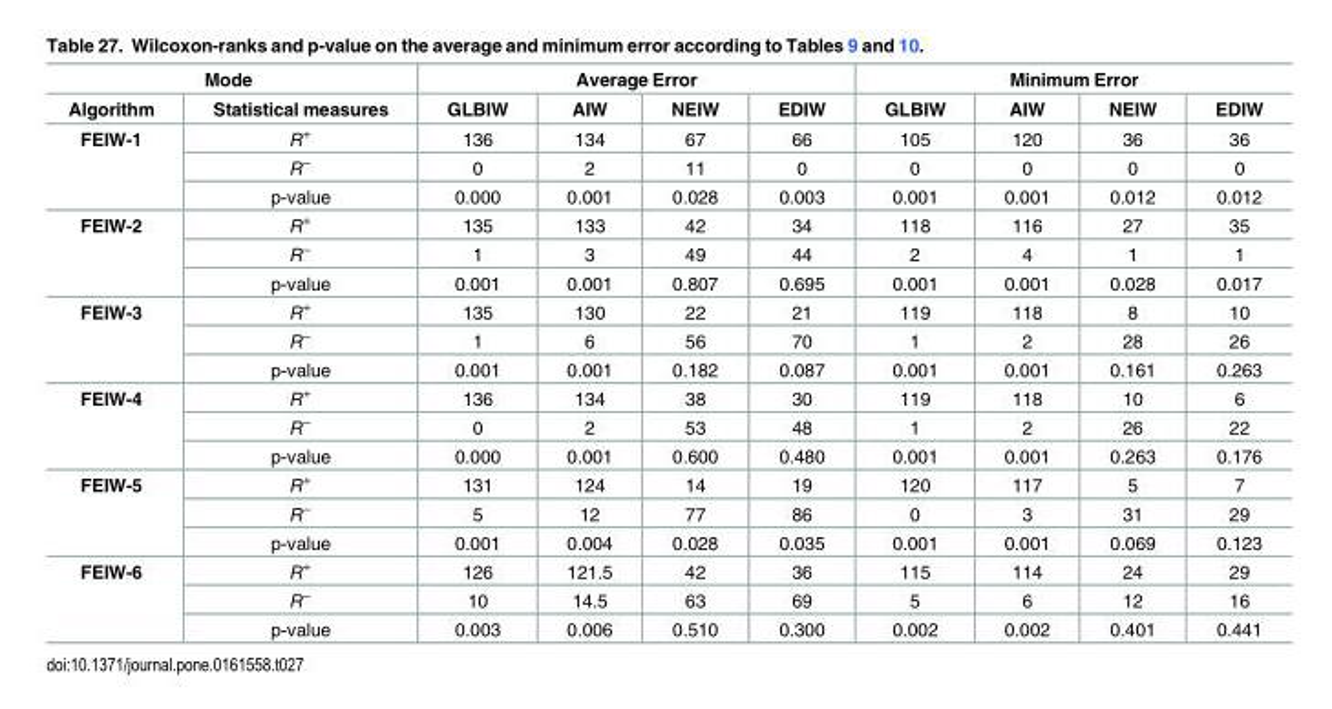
<table><thead><tr><td colspan="2">Mode</td><td colspan="4">Average Error</td><td colspan="4">Minimum Error</td></tr><tr><td>Algorithm</td><td>Statistical measures</td><td>GLBIW</td><td>AIW</td><td>NEIW</td><td>EDIW</td><td>GLBIW</td><td>AIW</td><td>NEIW</td><td>EDIW</td></tr></thead><tbody><tr><td rowspan="3">FEIW-1</td><td>R<sup>+</sup></td><td>136</td><td>134</td><td>67</td><td>66</td><td>105</td><td>120</td><td>36</td><td>36</td></tr><tr><td>R<sup>−</sup></td><td>0</td><td>2</td><td>11</td><td>0</td><td>0</td><td>0</td><td>0</td><td>0</td></tr><tr><td>p-value</td><td>0.000</td><td>0.001</td><td>0.028</td><td>0.003</td><td>0.001</td><td>0.001</td><td>0.012</td><td>0.012</td></tr><tr><td rowspan="3">FEIW-2</td><td>R<sup>+</sup></td><td>135</td><td>133</td><td>42</td><td>34</td><td>118</td><td>116</td><td>27</td><td>35</td></tr><tr><td>R<sup>−</sup></td><td>1</td><td>3</td><td>49</td><td>44</td><td>2</td><td>4</td><td>1</td><td>1</td></tr><tr><td>p-value</td><td>0.001</td><td>0.001</td><td>0.807</td><td>0.695</td><td>0.001</td><td>0.001</td><td>0.028</td><td>0.017</td></tr><tr><td rowspan="3">FEIW-3</td><td>R<sup>+</sup></td><td>135</td><td>130</td><td>22</td><td>21</td><td>119</td><td>118</td><td>8</td><td>10</td></tr><tr><td>R<sup>−</sup></td><td>1</td><td>6</td><td>56</td><td>70</td><td>1</td><td>2</td><td>28</td><td>26</td></tr><tr><td>p-value</td><td>0.001</td><td>0.001</td><td>0.182</td><td>0.087</td><td>0.001</td><td>0.001</td><td>0.161</td><td>0.263</td></tr><tr><td rowspan="3">FEIW-4</td><td>R<sup>+</sup></td><td>136</td><td>134</td><td>38</td><td>30</td><td>119</td><td>118</td><td>10</td><td>6</td></tr><tr><td>R<sup>−</sup></td><td>0</td><td>2</td><td>53</td><td>48</td><td>1</td><td>2</td><td>26</td><td>22</td></tr><tr><td>p-value</td><td>0.000</td><td>0.001</td><td>0.600</td><td>0.480</td><td>0.001</td><td>0.001</td><td>0.263</td><td>0.176</td></tr><tr><td rowspan="3">FEIW-5</td><td>R<sup>+</sup></td><td>131</td><td>124</td><td>14</td><td>19</td><td>120</td><td>117</td><td>5</td><td>7</td></tr><tr><td>R<sup>−</sup></td><td>5</td><td>12</td><td>77</td><td>86</td><td>0</td><td>3</td><td>31</td><td>29</td></tr><tr><td>p-value</td><td>0.001</td><td>0.004</td><td>0.028</td><td>0.035</td><td>0.001</td><td>0.001</td><td>0.069</td><td>0.123</td></tr><tr><td rowspan="3">FEIW-6</td><td>R<sup>+</sup></td><td>126</td><td>121.5</td><td>42</td><td>36</td><td>115</td><td>114</td><td>24</td><td>29</td></tr><tr><td>R<sup>−</sup></td><td>10</td><td>14.5</td><td>63</td><td>69</td><td>5</td><td>6</td><td>12</td><td>16</td></tr><tr><td>p-value</td><td>0.003</td><td>0.006</td><td>0.510</td><td>0.300</td><td>0.002</td><td>0.002</td><td>0.401</td><td>0.441</td></tr></tbody></table>